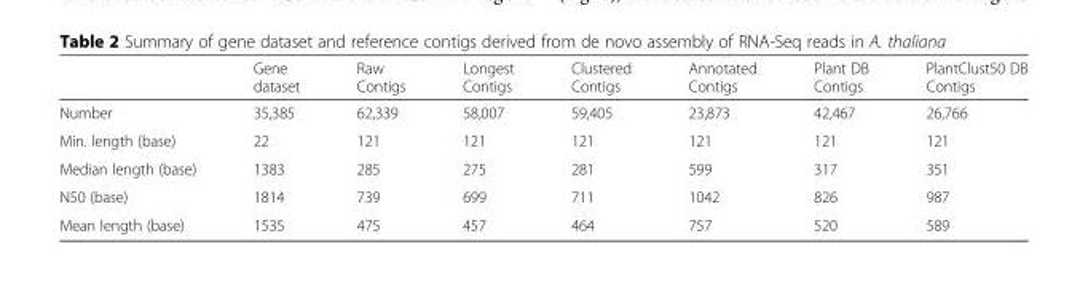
<table><thead><tr><td></td><td>Gene dataset</td><td>Raw Contigs</td><td>Longest Contigs</td><td>Clustered Contigs</td><td>Annotated Contigs</td><td>Plant DB Contigs</td><td>PlantClust50 DB Contigs</td></tr></thead><tbody><tr><td>Number</td><td>35,385</td><td>62,339</td><td>58,007</td><td>59,405</td><td>23,873</td><td>42,467</td><td>26,766</td></tr><tr><td>Min. length (base)</td><td>22</td><td>121</td><td>121</td><td>121</td><td>121</td><td>121</td><td>121</td></tr><tr><td>Median length (base)</td><td>1383</td><td>285</td><td>275</td><td>281</td><td>599</td><td>317</td><td>351</td></tr><tr><td>N50 (base)</td><td>1814</td><td>739</td><td>699</td><td>711</td><td>1042</td><td>826</td><td>987</td></tr><tr><td>Mean length (base)</td><td>1535</td><td>475</td><td>457</td><td>464</td><td>757</td><td>520</td><td>589</td></tr></tbody></table>